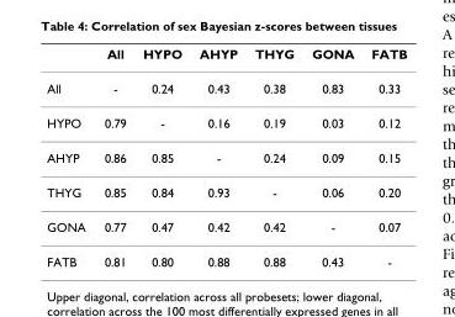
<table><thead><tr><td></td><td>All</td><td>HYPO</td><td>AHYP</td><td>THYG</td><td>GONA</td><td>FATB</td></tr></thead><tbody><tr><td>All</td><td>-</td><td>0.24</td><td>0.43</td><td>0.38</td><td>0.83</td><td>0.33</td></tr><tr><td>HYPO</td><td>0.79</td><td>-</td><td>0.16</td><td>0.19</td><td>0.03</td><td>0.12</td></tr><tr><td>AHYP</td><td>0.86</td><td>0.85</td><td>-</td><td>0.24</td><td>0.09</td><td>0.15</td></tr><tr><td>THYG</td><td>0.85</td><td>0.84</td><td>0.93</td><td>-</td><td>0.06</td><td>0.20</td></tr><tr><td>GONA</td><td>0.77</td><td>0.47</td><td>0.42</td><td>0.42</td><td>-</td><td>0.07</td></tr><tr><td>FATB</td><td>0.81</td><td>0.80</td><td>0.88</td><td>0.88</td><td>0.43</td><td>-</td></tr></tbody></table>